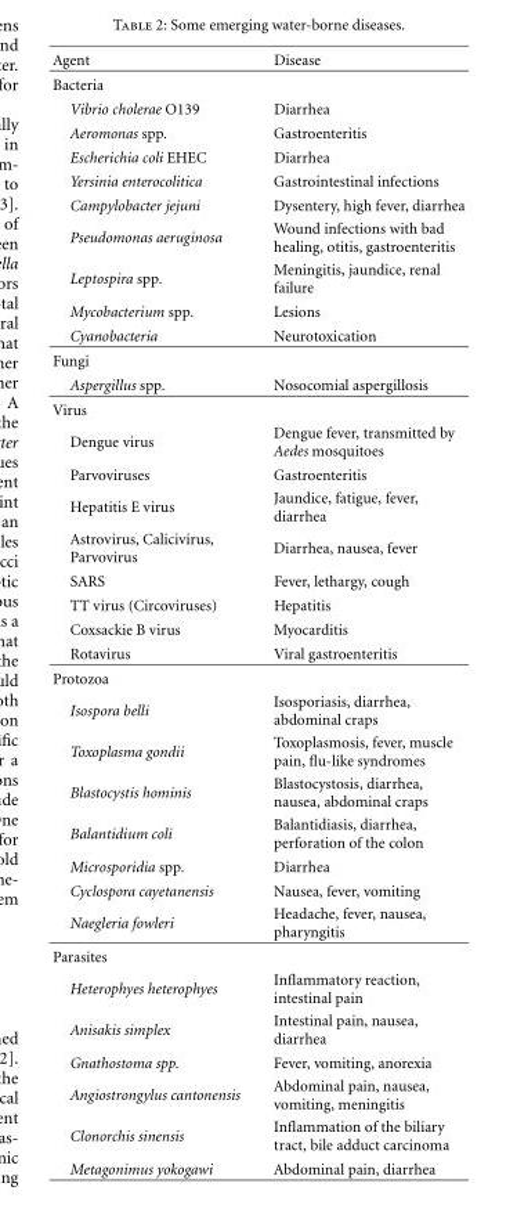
<table><thead><tr><td>Agent</td><td>Disease</td></tr></thead><tbody><tr><td colspan="2">Bacteria</td></tr><tr><td>Vibrio cholerae O139</td><td>Diarrhea</td></tr><tr><td>Aeromonas spp.</td><td>Gastroenteritis</td></tr><tr><td>Escherichia coli EHEC</td><td>Diarrhea</td></tr><tr><td>Yersinia enterocolitica</td><td>Gastrointestinal infections</td></tr><tr><td>Campylobacter jejuni</td><td>Dysentery, high fever, diarrhea</td></tr><tr><td>Pseudomonas aeruginosa</td><td>Wound infections with bad healing, otitis, gastroenteritis</td></tr><tr><td>Leptospira spp.</td><td>Meningitis, jaundice, renal failure</td></tr><tr><td>Mycobacterium spp.</td><td>Lesions</td></tr><tr><td>Cyanobacteria</td><td>Neurotoxication</td></tr><tr><td colspan="2">Fungi</td></tr><tr><td>Aspergillus spp.</td><td>Nosocomial aspergillosis</td></tr><tr><td colspan="2">Virus</td></tr><tr><td>Dengue virus</td><td>Dengue fever, transmitted by Aedes mosquitoes</td></tr><tr><td>Parvoviruses</td><td>Gastroenteritis</td></tr><tr><td>Hepatitis E virus</td><td>Jaundice, fatigue, fever, diarrhea</td></tr><tr><td>Astrovirus, Calicivirus, Parvovirus</td><td>Diarrhea, nausea, fever</td></tr><tr><td>SARS</td><td>Fever, lethargy, cough</td></tr><tr><td>TT virus (Circoviruses)</td><td>Hepatitis</td></tr><tr><td>Coxsackie B virus</td><td>Myocarditis</td></tr><tr><td>Rotavirus</td><td>Viral gastroenteritis</td></tr><tr><td colspan="2">Protozoa</td></tr><tr><td>Isospora belli</td><td>Isosporiasis, diarrhea, abdominal craps</td></tr><tr><td>Toxoplasma gondii</td><td>Toxoplasmosis, fever, muscle pain, flu-like syndromes</td></tr><tr><td>Blastocystis hominis</td><td>Blastocystosis, diarrhea, nausea, abdominal craps</td></tr><tr><td>Balantidium coli</td><td>Balantidiasis, diarrhea, perforation of the colon</td></tr><tr><td>Microsporidia spp.</td><td>Diarrhea</td></tr><tr><td>Cyclospora cayetanensis</td><td>Nausea, fever, vomiting</td></tr><tr><td>Naegleria fowleri</td><td>Headache, fever, nausea, pharyngitis</td></tr><tr><td colspan="2">Parasites</td></tr><tr><td>Heterophyes heterophyes</td><td>Inflammatory reaction, intestinal pain</td></tr><tr><td>Anisakis simplex</td><td>Intestinal pain, nausea, diarrhea</td></tr><tr><td>Gnathostoma spp.</td><td>Fever, vomiting, anorexia</td></tr><tr><td>Angiostrongylus cantonensis</td><td>Abdominal pain, nausea, vomiting, meningitis</td></tr><tr><td>Clonorchis sinensis</td><td>Inflammation of the biliary tract, bile adduct carcinoma</td></tr><tr><td>Metagonimus yokogawi</td><td>Abdominal pain, diarrhea</td></tr></tbody></table>